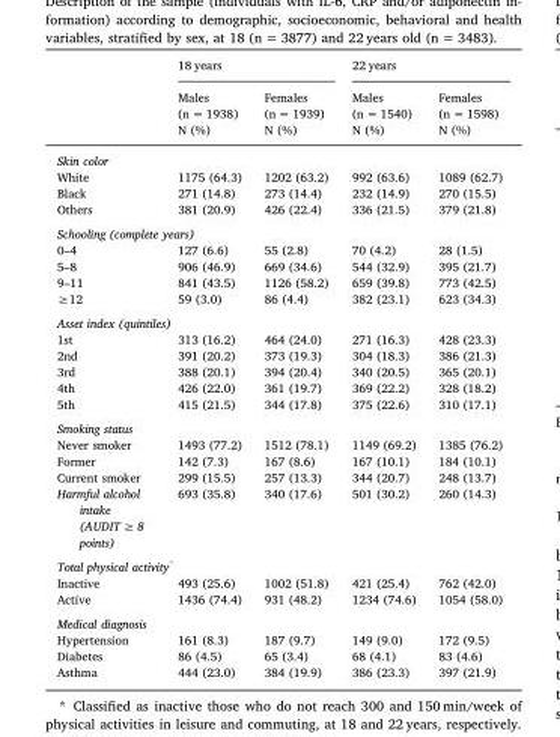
<table><thead><tr><td rowspan="2"></td><td colspan="2">18 years</td><td colspan="2">22 years</td></tr><tr><td>Males (n = 1938) N (%)</td><td>Females (n = 1939) N (%)</td><td>Males (n = 1540) N (%)</td><td>Females (n = 1598) N (%)</td></tr></thead><tbody><tr><td colspan="5">Skin color</td></tr><tr><td>White</td><td>1175 (64.3)</td><td>1202 (63.2)</td><td>992 (63.6)</td><td>1089 (62.7)</td></tr><tr><td>Black</td><td>271 (14.8)</td><td>273 (14.4)</td><td>232 (14.9)</td><td>270 (15.5)</td></tr><tr><td>Others</td><td>381 (20.9)</td><td>426 (22.4)</td><td>336 (21.5)</td><td>379 (21.8)</td></tr><tr><td colspan="5">Schooling (complete years)</td></tr><tr><td>0–4</td><td>127 (6.6)</td><td>55 (2.8)</td><td>70 (4.2)</td><td>28 (1.5)</td></tr><tr><td>5–8</td><td>906 (46.9)</td><td>669 (34.6)</td><td>544 (32.9)</td><td>395 (21.7)</td></tr><tr><td>9–11</td><td>841 (43.5)</td><td>1126 (58.2)</td><td>659 (39.8)</td><td>773 (42.5)</td></tr><tr><td>≥12</td><td>59 (3.0)</td><td>86 (4.4)</td><td>382 (23.1)</td><td>623 (34.3)</td></tr><tr><td colspan="5">Asset index (quintiles)</td></tr><tr><td>1st</td><td>313 (16.2)</td><td>464 (24.0)</td><td>271 (16.3)</td><td>428 (23.3)</td></tr><tr><td>2nd</td><td>391 (20.2)</td><td>373 (19.3)</td><td>304 (18.3)</td><td>386 (21.3)</td></tr><tr><td>3rd</td><td>388 (20.1)</td><td>394 (20.4)</td><td>340 (20.5)</td><td>365 (20.1)</td></tr><tr><td>4th</td><td>426 (22.0)</td><td>361 (19.7)</td><td>369 (22.2)</td><td>328 (18.2)</td></tr><tr><td>5th</td><td>415 (21.5)</td><td>344 (17.8)</td><td>375 (22.6)</td><td>310 (17.1)</td></tr><tr><td colspan="5">Smoking status</td></tr><tr><td>Never smoker</td><td>1493 (77.2)</td><td>1512 (78.1)</td><td>1149 (69.2)</td><td>1385 (76.2)</td></tr><tr><td>Former</td><td>142 (7.3)</td><td>167 (8.6)</td><td>167 (10.1)</td><td>184 (10.1)</td></tr><tr><td>Current smoker</td><td>299 (15.5)</td><td>257 (13.3)</td><td>344 (20.7)</td><td>248 (13.7)</td></tr><tr><td>Harmful alcohol intake (AUDIT ≥ 8 points)</td><td>693 (35.8)</td><td>340 (17.6)</td><td>501 (30.2)</td><td>260 (14.3)</td></tr><tr><td colspan="5">Total physical activity*</td></tr><tr><td>Inactive</td><td>493 (25.6)</td><td>1002 (51.8)</td><td>421 (25.4)</td><td>762 (42.0)</td></tr><tr><td>Active</td><td>1436 (74.4)</td><td>931 (48.2)</td><td>1234 (74.6)</td><td>1054 (58.0)</td></tr><tr><td colspan="5">Medical diagnosis</td></tr><tr><td>Hypertension</td><td>161 (8.3)</td><td>187 (9.7)</td><td>149 (9.0)</td><td>172 (9.5)</td></tr><tr><td>Diabetes</td><td>86 (4.5)</td><td>65 (3.4)</td><td>68 (4.1)</td><td>83 (4.6)</td></tr><tr><td>Asthma</td><td>444 (23.0)</td><td>384 (19.9)</td><td>386 (23.3)</td><td>397 (21.9)</td></tr></tbody></table>